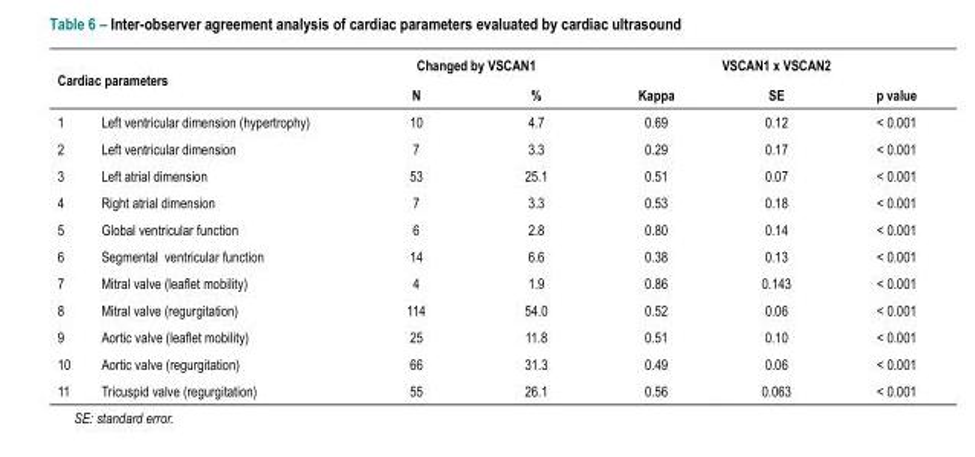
<table><thead><tr><td rowspan="2" colspan="2">Cardiac parameters</td><td colspan="2">Changed by VSCAN1</td><td colspan="3">VSCAN1 x VSCAN2</td></tr><tr><td rowspan="2">N 10</td><td rowspan="2">% 4.7</td><td rowspan="2">Kappa 0.69</td><td rowspan="2">SE 0.12</td><td rowspan="2">p value &lt; 0.001</td></tr><tr><td>1</td><td>Left ventricular dimension (hypertrophy)</td></tr></thead><tbody><tr><td>2</td><td>Left ventricular dimension</td><td>7</td><td>3.3</td><td>0.29</td><td>0.17</td><td>&lt; 0.001</td></tr><tr><td>3</td><td>Left atrial dimension</td><td>53</td><td>25.1</td><td>0.51</td><td>0.07</td><td>&lt; 0.001</td></tr><tr><td>4</td><td>Right atrial dimension</td><td>7</td><td>3.3</td><td>0.53</td><td>0.18</td><td>&lt; 0.001</td></tr><tr><td>5</td><td>Global ventricular function</td><td>6</td><td>2.8</td><td>0.80</td><td>0.14</td><td>&lt; 0.001</td></tr><tr><td>6</td><td>Segmental ventricular function</td><td>14</td><td>6.6</td><td>0.38</td><td>0.13</td><td>&lt; 0.001</td></tr><tr><td>7</td><td>Mitral valve (leaflet mobility)</td><td>4</td><td>1.9</td><td>0.86</td><td>0.143</td><td>&lt; 0.001</td></tr><tr><td>8</td><td>Mitral valve (regurgitation)</td><td>114</td><td>54.0</td><td>0.52</td><td>0.06</td><td>&lt; 0.001</td></tr><tr><td>9</td><td>Aortic valve (leaflet mobility)</td><td>25</td><td>11.8</td><td>0.51</td><td>0.10</td><td>&lt; 0.001</td></tr><tr><td>10</td><td>Aortic valve (regurgitation)</td><td>66</td><td>31.3</td><td>0.49</td><td>0.06</td><td>&lt; 0.001</td></tr><tr><td>11</td><td>Tricuspid valve (regurgitation)</td><td>55</td><td>26.1</td><td>0.56</td><td>0.063</td><td>&lt; 0.001</td></tr></tbody></table>